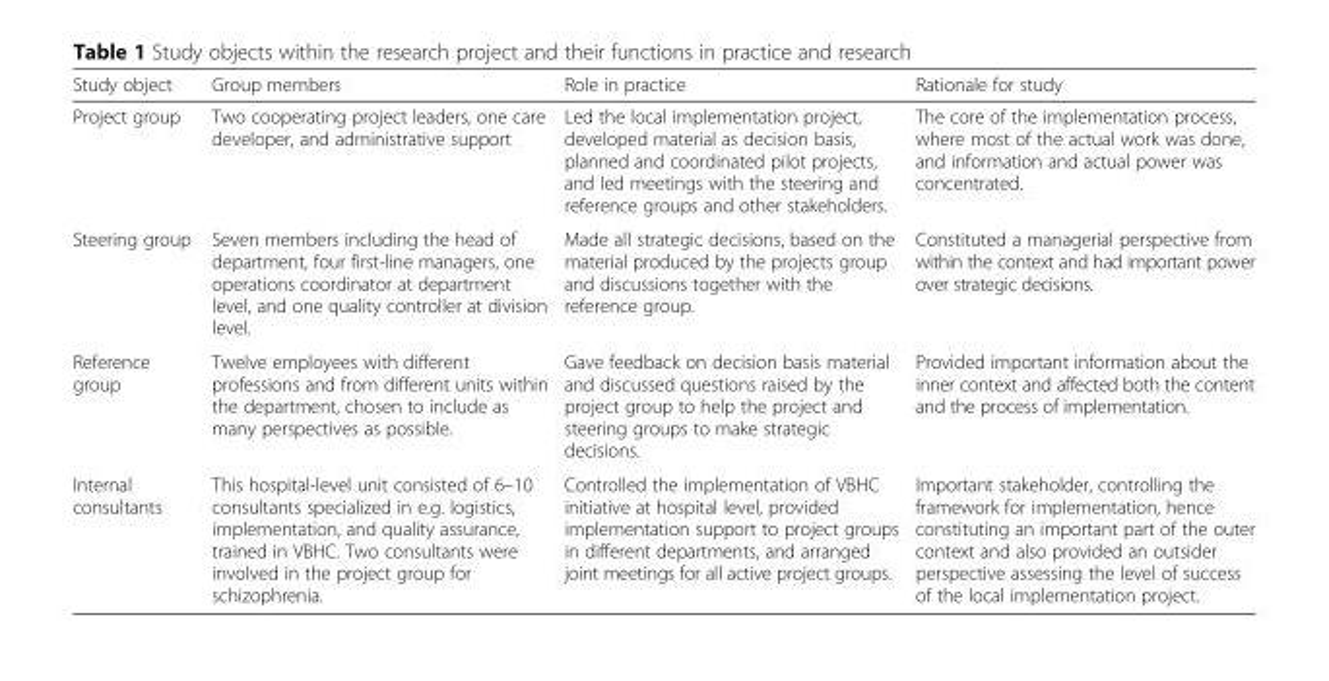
<table><thead><tr><td>Study object</td><td>Group members</td><td>Role in practice</td><td>Rationale for study</td></tr></thead><tbody><tr><td>Project group</td><td>Two cooperating project leaders, one care developer, and administrative support</td><td>Led the local implementation project, developed material as decision basis, planned and coordinated pilot projects, and led meetings with the steering and reference groups and other stakeholders.</td><td>The core of the implementation process, where most of the actual work was done, and information and actual power was concentrated.</td></tr><tr><td>Steering group</td><td>Seven members including the head of department, four first-line managers, one operations coordinator at department level, and one quality controller at division level.</td><td>Made all strategic decisions, based on the material produced by the projects group and discussions together with the reference group.</td><td>Constituted a managerial perspective from within the context and had important power over strategic decisions.</td></tr><tr><td>Reference group</td><td>Twelve employees with different professions and from different units within the department, chosen to include as many perspectives as possible.</td><td>Gave feedback on decision basis material and discussed questions raised by the project group to help the project and steering groups to make strategic decisions.</td><td>Provided important information about the inner context and affected both the content and the process of implementation.</td></tr><tr><td>Internal consultants</td><td>This hospital-level unit consisted of 6–10 consultants specialized in e.g. logistics, implementation, and quality assurance, trained in VBHC. Two consultants were involved in the project group for schizophrenia.</td><td>Controlled the implementation of VBHC initiative at hospital level, provided implementation support to project groups in different departments, and arranged joint meetings for all active project groups.</td><td>Important stakeholder, controlling the framework for implementation, hence constituting an important part of the outer context and also provided an outsider perspective assessing the level of success of the local implementation project.</td></tr></tbody></table>